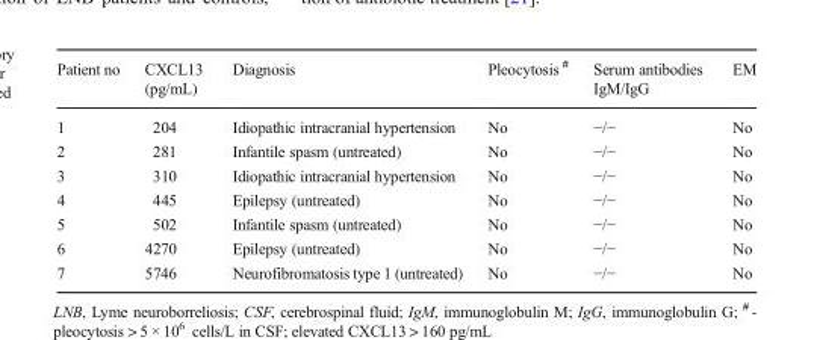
<table><thead><tr><td>Patient no</td><td>CXCL13 (pg/mL)</td><td>Diagnosis</td><td>Pleocytosis <sup>#</sup></td><td>Serum antibodies IgM/IgG</td><td>EM</td></tr></thead><tbody><tr><td>1</td><td>204</td><td>Idiopathic intracranial hypertension</td><td>No</td><td>−/−</td><td>No</td></tr><tr><td>2</td><td>281</td><td>Infantile spasm (untreated)</td><td>No</td><td>−/−</td><td>No</td></tr><tr><td>3</td><td>310</td><td>Idiopathic intracranial hypertension</td><td>No</td><td>−/−</td><td>No</td></tr><tr><td>4</td><td>445</td><td>Epilepsy (untreated)</td><td>No</td><td>−/−</td><td>No</td></tr><tr><td>5</td><td>502</td><td>Infantile spasm (untreated)</td><td>No</td><td>−/−</td><td>No</td></tr><tr><td>6</td><td>4270</td><td>Epilepsy (untreated)</td><td>No</td><td>−/−</td><td>No</td></tr><tr><td>7</td><td>5746</td><td>Neurofibromatosis type 1 (untreated)</td><td>No</td><td>−/−</td><td>No</td></tr></tbody></table>